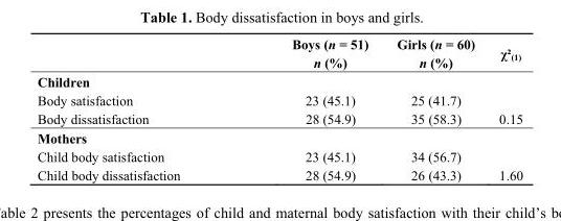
<table><thead><tr><td></td><td>Boys (n = 51) n (%)</td><td>Girls (n = 60) n (%)</td><td>χ²<sub>(1)</sub></td></tr></thead><tbody><tr><td colspan="4">Children</td></tr><tr><td>Body satisfaction</td><td>23 (45.1)</td><td>25 (41.7)</td><td></td></tr><tr><td>Body dissatisfaction</td><td>28 (54.9)</td><td>35 (58.3)</td><td>0.15</td></tr><tr><td colspan="4">Mothers</td></tr><tr><td>Child body satisfaction</td><td>23 (45.1)</td><td>34 (56.7)</td><td></td></tr><tr><td>Child body dissatisfaction</td><td>28 (54.9)</td><td>26 (43.3)</td><td>1.60</td></tr></tbody></table>